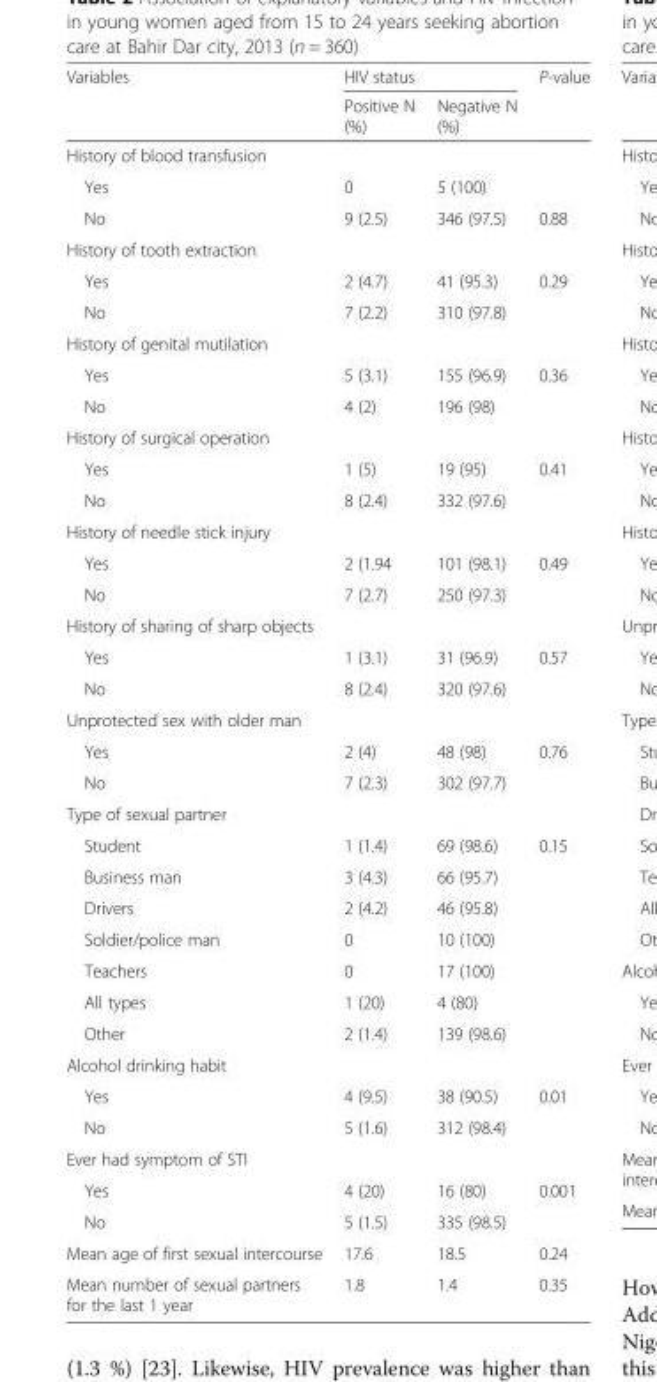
<table><thead><tr><td rowspan="2">Variables</td><td colspan="2">HIV status</td><td rowspan="2">P-value</td></tr><tr><td>Positive N (%)</td><td>Negative N (%)</td></tr></thead><tbody><tr><td colspan="4">History of blood transfusion</td></tr><tr><td>Yes</td><td>0</td><td>5 (100)</td><td></td></tr><tr><td>No</td><td>9 (2.5)</td><td>346 (97.5)</td><td>0.88</td></tr><tr><td colspan="4">History of tooth extraction</td></tr><tr><td>Yes</td><td>2 (4.7)</td><td>41 (95.3)</td><td>0.29</td></tr><tr><td>No</td><td>7 (2.2)</td><td>310 (97.8)</td><td></td></tr><tr><td colspan="4">History of genital mutilation</td></tr><tr><td>Yes</td><td>5 (3.1)</td><td>155 (96.9)</td><td>0.36</td></tr><tr><td>No</td><td>4 (2)</td><td>196 (98)</td><td></td></tr><tr><td colspan="4">History of surgical operation</td></tr><tr><td>Yes</td><td>1 (5)</td><td>19 (95)</td><td>0.41</td></tr><tr><td>No</td><td>8 (2.4)</td><td>332 (97.6)</td><td></td></tr><tr><td colspan="4">History of needle stick injury</td></tr><tr><td>Yes</td><td>2 (1.94</td><td>101 (98.1)</td><td>0.49</td></tr><tr><td>No</td><td>7 (2.7)</td><td>250 (97.3)</td><td></td></tr><tr><td colspan="4">History of sharing of sharp objects</td></tr><tr><td>Yes</td><td>1 (3.1)</td><td>31 (96.9)</td><td>0.57</td></tr><tr><td>No</td><td>8 (2.4)</td><td>320 (97.6)</td><td></td></tr><tr><td colspan="4">Unprotected sex with older man</td></tr><tr><td>Yes</td><td>2 (4)</td><td>48 (98)</td><td>0.76</td></tr><tr><td>No</td><td>7 (2.3)</td><td>302 (97.7)</td><td></td></tr><tr><td colspan="4">Type of sexual partner</td></tr><tr><td>Student</td><td>1 (1.4)</td><td>69 (98.6)</td><td>0.15</td></tr><tr><td>Business man</td><td>3 (4.3)</td><td>66 (95.7)</td><td></td></tr><tr><td>Drivers</td><td>2 (4.2)</td><td>46 (95.8)</td><td></td></tr><tr><td>Soldier/police man</td><td>0</td><td>10 (100)</td><td></td></tr><tr><td>Teachers</td><td>0</td><td>17 (100)</td><td></td></tr><tr><td>All types</td><td>1 (20)</td><td>4 (80)</td><td></td></tr><tr><td>Other</td><td>2 (1.4)</td><td>139 (98.6)</td><td></td></tr><tr><td colspan="4">Alcohol drinking habit</td></tr><tr><td>Yes</td><td>4 (9.5)</td><td>38 (90.5)</td><td>0.01</td></tr><tr><td>No</td><td>5 (1.6)</td><td>312 (98.4)</td><td></td></tr><tr><td colspan="4">Ever had symptom of STI</td></tr><tr><td>Yes</td><td>4 (20)</td><td>16 (80)</td><td>0.001</td></tr><tr><td>No</td><td>5 (1.5)</td><td>335 (98.5)</td><td></td></tr><tr><td>Mean age of first sexual intercourse</td><td>17.6</td><td>18.5</td><td>0.24</td></tr><tr><td>Mean number of sexual partners for the last 1 year</td><td>1.8</td><td>1.4</td><td>0.35</td></tr></tbody></table>